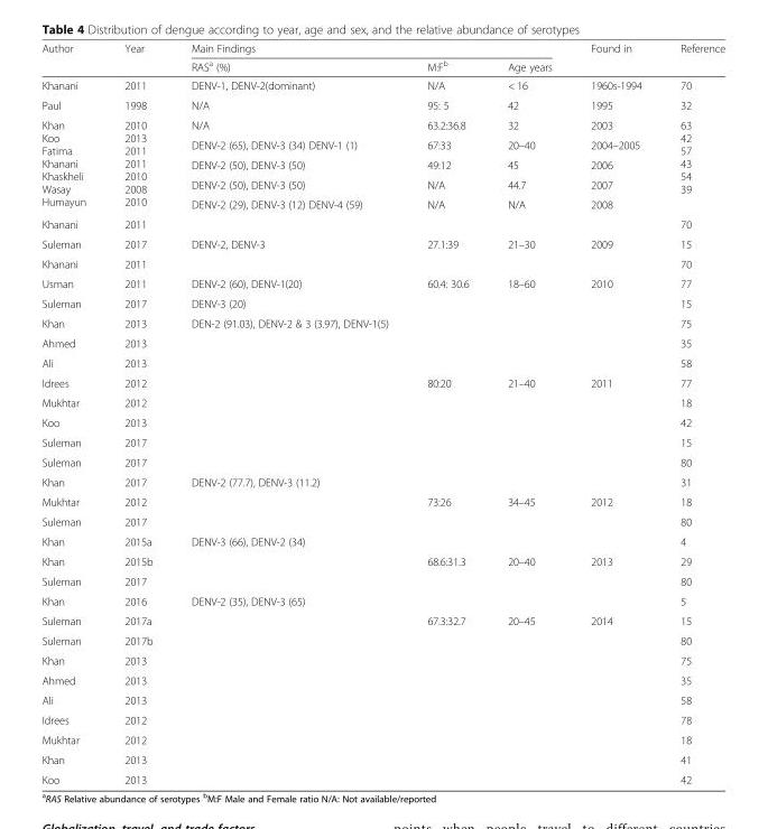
<table><thead><tr><td rowspan="2">Author</td><td rowspan="2">Year</td><td colspan="3">Main Findings</td><td rowspan="2">Found in</td><td rowspan="2">Reference</td></tr><tr><td>RAS<sup>a</sup> (%)</td><td>M:F<sup>b</sup></td><td>Age years</td></tr></thead><tbody><tr><td>Khanani</td><td>2011</td><td>DENV-1, DENV-2(dominant)</td><td>N/A</td><td>&lt; 16</td><td>1960s-1994</td><td>70</td></tr><tr><td>Paul</td><td>1998</td><td>N/A</td><td>95: 5</td><td>42</td><td>1995</td><td>32</td></tr><tr><td rowspan="5">Khan Koo Fatima Khanani Khaskheli Wasay Humayun</td><td rowspan="5">2010 2013 2011 2011 2010 2008 2010</td><td>N/A</td><td>63.2:36.8</td><td>32</td><td>2003</td><td rowspan="5">63 42 57 43 54 39</td></tr><tr><td>DENV-2 (65), DENV-3 (34) DENV-1 (1)</td><td>67:33</td><td>20–40</td><td>2004–2005</td></tr><tr><td>DENV-2 (50), DENV-3 (50)</td><td>49:12</td><td>45</td><td>2006</td></tr><tr><td>DENV-2 (50), DENV-3 (50)</td><td>N/A</td><td>44.7</td><td>2007</td></tr><tr><td>DENV-2 (29), DENV-3 (12) DENV-4 (59)</td><td>N/A</td><td>N/A</td><td>2008</td></tr><tr><td>Khanani</td><td>2011</td><td></td><td></td><td></td><td></td><td>70</td></tr><tr><td>Suleman</td><td>2017</td><td>DENV-2, DENV-3</td><td>27.1:39</td><td>21–30</td><td>2009</td><td>15</td></tr><tr><td>Khanani</td><td>2011</td><td></td><td></td><td></td><td></td><td>70</td></tr><tr><td>Usman</td><td>2011</td><td>DENV-2 (60), DENV-1(20)</td><td>60.4: 30.6</td><td>18–60</td><td>2010</td><td>77</td></tr><tr><td>Suleman</td><td>2017</td><td>DENV-3 (20)</td><td></td><td></td><td></td><td>15</td></tr><tr><td>Khan</td><td>2013</td><td rowspan="8">DEN-2 (91.03), DENV-2 &amp; 3 (3.97), DENV-1(5)</td><td></td><td></td><td></td><td>75</td></tr><tr><td>Ahmed</td><td>2013</td><td></td><td></td><td></td><td>35</td></tr><tr><td>Ali</td><td>2013</td><td></td><td></td><td></td><td>58</td></tr><tr><td>Idrees</td><td>2012</td><td>80:20</td><td>21–40</td><td>2011</td><td>77</td></tr><tr><td>Mukhtar</td><td>2012</td><td></td><td></td><td></td><td>18</td></tr><tr><td>Koo</td><td>2013</td><td></td><td></td><td></td><td>42</td></tr><tr><td>Suleman</td><td>2017</td><td></td><td></td><td></td><td>15</td></tr><tr><td>Suleman</td><td>2017</td><td></td><td></td><td></td><td>80</td></tr><tr><td>Khan</td><td>2017</td><td rowspan="3">DENV-2 (77.7), DENV-3 (11.2)</td><td></td><td></td><td></td><td>31</td></tr><tr><td>Mukhtar</td><td>2012</td><td>73:26</td><td>34–45</td><td>2012</td><td>18</td></tr><tr><td>Suleman</td><td>2017</td><td></td><td></td><td></td><td>80</td></tr><tr><td>Khan</td><td>2015a</td><td rowspan="3">DENV-3 (66), DENV-2 (34)</td><td></td><td></td><td></td><td>4</td></tr><tr><td>Khan</td><td>2015b</td><td>68.6:31.3</td><td>20–40</td><td>2013</td><td>29</td></tr><tr><td>Suleman</td><td>2017</td><td></td><td></td><td></td><td>80</td></tr><tr><td>Khan</td><td>2016</td><td rowspan="10">DENV-2 (35), DENV-3 (65)</td><td></td><td></td><td></td><td>5</td></tr><tr><td>Suleman</td><td>2017a</td><td>67.3:32.7</td><td>20–45</td><td>2014</td><td>15</td></tr><tr><td>Suleman</td><td>2017b</td><td></td><td></td><td></td><td>80</td></tr><tr><td>Khan</td><td>2013</td><td></td><td></td><td></td><td>75</td></tr><tr><td>Ahmed</td><td>2013</td><td></td><td></td><td></td><td>35</td></tr><tr><td>Ali</td><td>2013</td><td></td><td></td><td></td><td>58</td></tr><tr><td>Idrees</td><td>2012</td><td></td><td></td><td></td><td>78</td></tr><tr><td>Mukhtar</td><td>2012</td><td></td><td></td><td></td><td>18</td></tr><tr><td>Khan</td><td>2013</td><td></td><td></td><td></td><td>41</td></tr><tr><td>Koo</td><td>2013</td><td></td><td></td><td></td><td>42</td></tr></tbody></table>